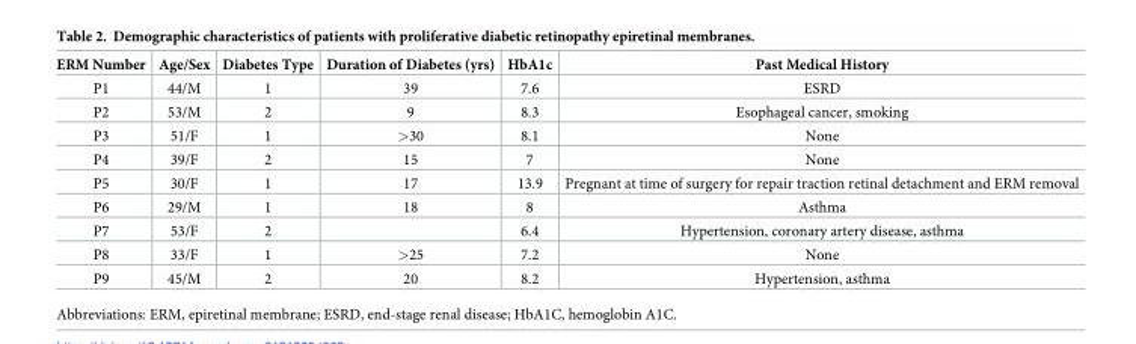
<table><thead><tr><td>ERM Number</td><td>Age/Sex</td><td>Diabetes Type</td><td>Duration of Diabetes (yrs)</td><td>HbA1c</td><td>Past Medical History</td></tr></thead><tbody><tr><td>P1</td><td>44/M</td><td>1</td><td>39</td><td>7.6</td><td>ESRD</td></tr><tr><td>P2</td><td>53/M</td><td>2</td><td>9</td><td>8.3</td><td>Esophageal cancer, smoking</td></tr><tr><td>P3</td><td>51/F</td><td>1</td><td>&gt;30</td><td>8.1</td><td>None</td></tr><tr><td>P4</td><td>39/F</td><td>2</td><td>15</td><td>7</td><td>None</td></tr><tr><td>P5</td><td>30/F</td><td>1</td><td>17</td><td>13.9</td><td>Pregnant at time of surgery for repair traction retinal detachment and ERM removal</td></tr><tr><td>P6</td><td>29/M</td><td>1</td><td>18</td><td>8</td><td>Asthma</td></tr><tr><td>P7</td><td>53/F</td><td>2</td><td></td><td>6.4</td><td>Hypertension, coronary artery disease, asthma</td></tr><tr><td>P8</td><td>33/F</td><td>1</td><td>&gt;25</td><td>7.2</td><td>None</td></tr><tr><td>P9</td><td>45/M</td><td>2</td><td>20</td><td>8.2</td><td>Hypertension, asthma</td></tr></tbody></table>